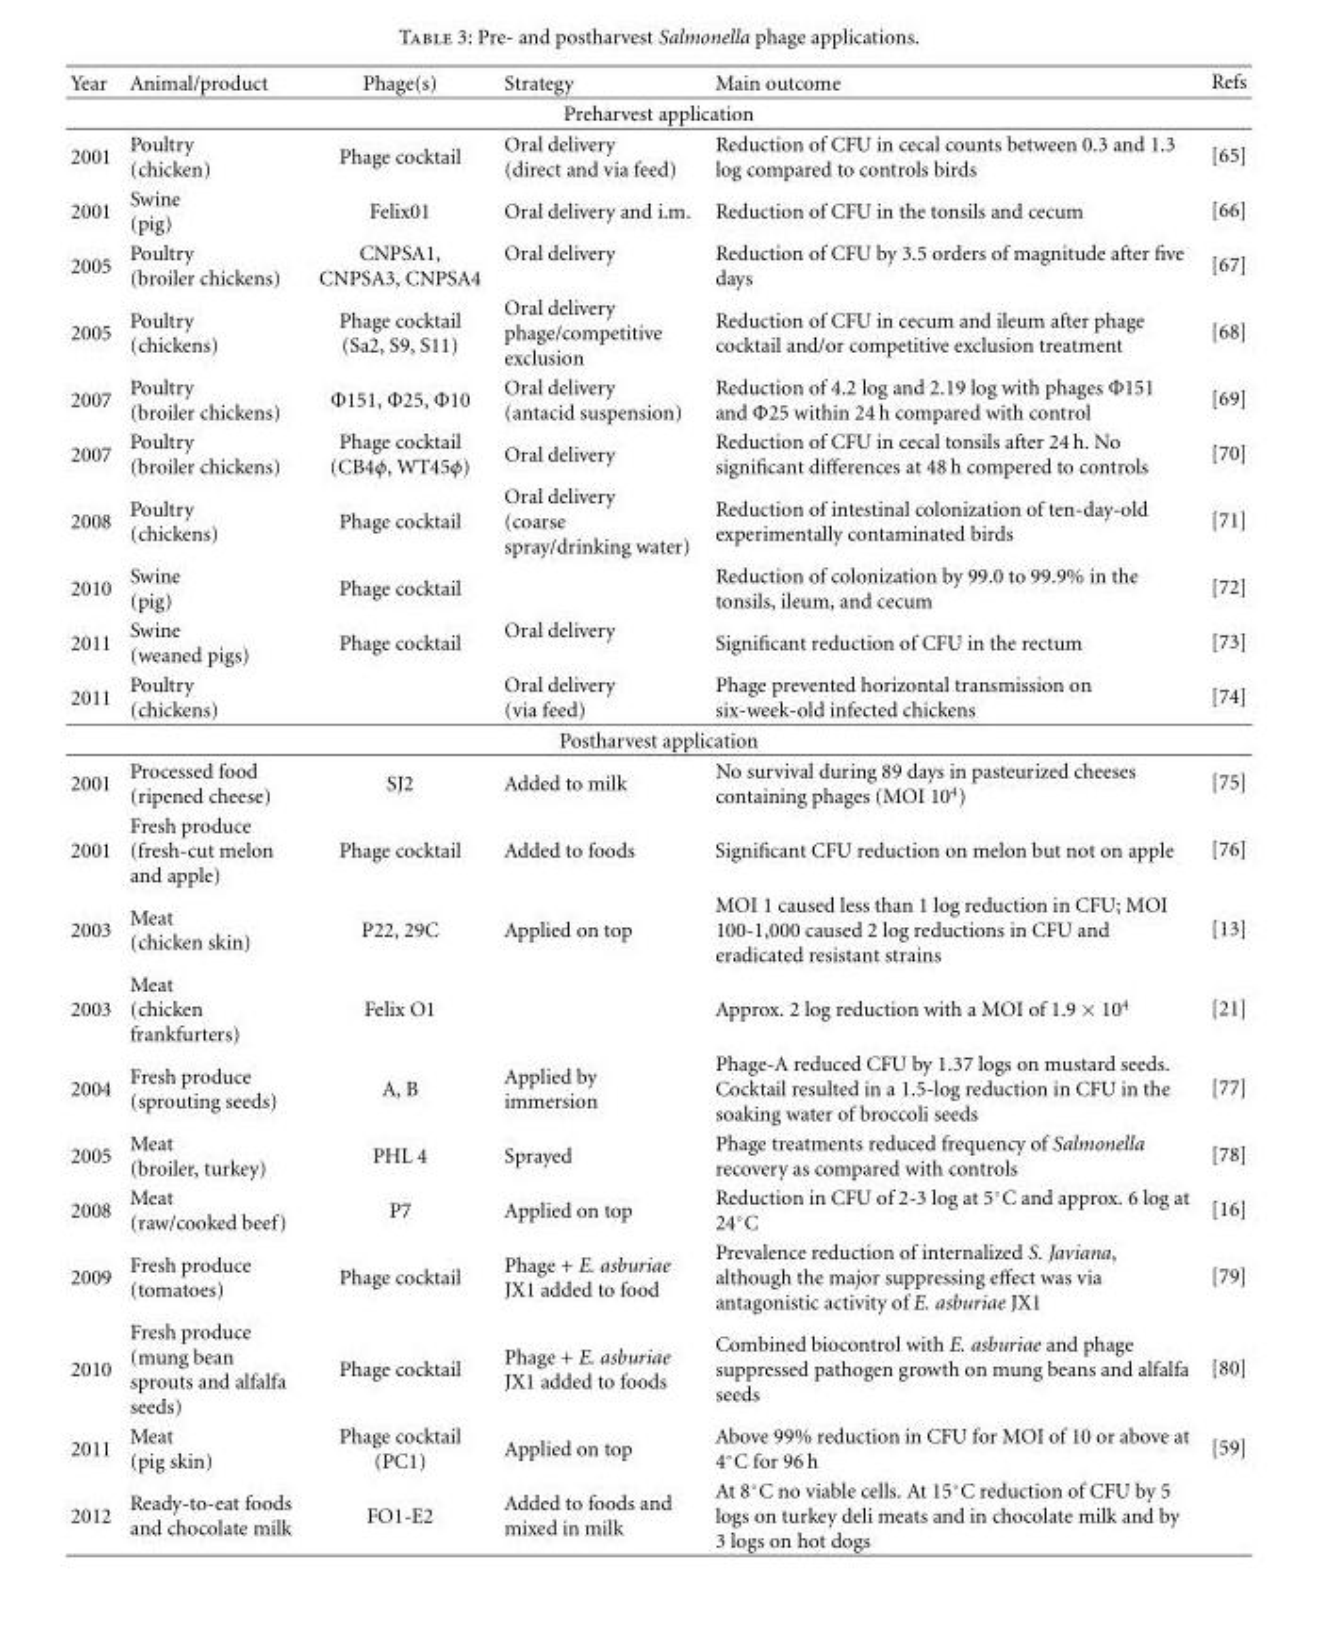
<table><thead><tr><td>Year</td><td>Animal/product</td><td>Phage(s)</td><td>Strategy</td><td>Main outcome</td><td>Refs</td></tr></thead><tbody><tr><td colspan="6">Preharvest application</td></tr><tr><td>2001</td><td>Poultry (chicken)</td><td>Phage cocktail</td><td>Oral delivery (direct and via feed)</td><td>Reduction of CFU in cecal counts between 0.3 and 1.3 log compared to controls birds</td><td>[65]</td></tr><tr><td>2001</td><td>Swine (pig)</td><td>Felix01</td><td>Oral delivery and i.m.</td><td>Reduction of CFU in the tonsils and cecum</td><td>[66]</td></tr><tr><td>2005</td><td>Poultry (broiler chickens)</td><td>CNPSA1, CNPSA3, CNPSA4</td><td>Oral delivery</td><td>Reduction of CFU by 3.5 orders of magnitude after five days</td><td>[67]</td></tr><tr><td>2005</td><td>Poultry (chickens)</td><td>Phage cocktail (Sa2, S9, S11)</td><td>Oral delivery phage/competitive exclusion</td><td>Reduction of CFU in cecum and ileum after phage cocktail and/or competitive exclusion treatment</td><td>[68]</td></tr><tr><td>2007</td><td>Poultry (broiler chickens)</td><td>Φ151, Φ25, Φ10</td><td>Oral delivery (antacid suspension)</td><td>Reduction of 4.2 log and 2.19 log with phages Φ151 and Φ25 within 24 h compared with control</td><td>[69]</td></tr><tr><td>2007</td><td>Poultry (broiler chickens)</td><td>Phage cocktail (CB4φ, WT45φ)</td><td>Oral delivery</td><td>Reduction of CFU in cecal tonsils after 24 h. No significant differences at 48 h compered to controls</td><td>[70]</td></tr><tr><td>2008</td><td>Poultry (chickens)</td><td>Phage cocktail</td><td>Oral delivery (coarse spray/drinking water)</td><td>Reduction of intestinal colonization of ten-day-old experimentally contaminated birds</td><td>[71]</td></tr><tr><td>2010</td><td>Swine (pig)</td><td>Phage cocktail</td><td></td><td>Reduction of colonization by 99.0 to 99.9% in the tonsils, ileum, and cecum</td><td>[72]</td></tr><tr><td>2011</td><td>Swine (weaned pigs)</td><td>Phage cocktail</td><td>Oral delivery</td><td>Significant reduction of CFU in the rectum</td><td>[73]</td></tr><tr><td>2011</td><td>Poultry (chickens)</td><td></td><td>Oral delivery (via feed)</td><td>Phage prevented horizontal transmission on six-week-old infected chickens</td><td>[74]</td></tr><tr><td colspan="6">Postharvest application</td></tr><tr><td>2001</td><td>Processed food (ripened cheese)</td><td>SJ2</td><td>Added to milk</td><td>No survival during 89 days in pasteurized cheeses containing phages (MOI 10<sup>4</sup>)</td><td>[75]</td></tr><tr><td>2001</td><td>Fresh produce (fresh-cut melon and apple)</td><td>Phage cocktail</td><td>Added to foods</td><td>Significant CFU reduction on melon but not on apple</td><td>[76]</td></tr><tr><td>2003</td><td>Meat (chicken skin)</td><td>P22, 29C</td><td>Applied on top</td><td>MOI 1 caused less than 1 log reduction in CFU; MOI 100-1,000 caused 2 log reductions in CFU and eradicated resistant strains</td><td>[13]</td></tr><tr><td>2003</td><td>Meat (chicken frankfurters)</td><td>Felix O1</td><td></td><td>Approx. 2 log reduction with a MOI of 1.9 × 10<sup>4</sup></td><td>[21]</td></tr><tr><td>2004</td><td>Fresh produce (sprouting seeds)</td><td>A, B</td><td>Applied by immersion</td><td>Phage-A reduced CFU by 1.37 logs on mustard seeds. Cocktail resulted in a 1.5-log reduction in CFU in the soaking water of broccoli seeds</td><td>[77]</td></tr><tr><td>2005</td><td>Meat (broiler, turkey)</td><td>PHL 4</td><td>Sprayed</td><td>Phage treatments reduced frequency of Salmonella recovery as compared with controls</td><td>[78]</td></tr><tr><td>2008</td><td>Meat (raw/cooked beef)</td><td>P7</td><td>Applied on top</td><td>Reduction in CFU of 2-3 log at 5◦C and approx. 6 log at 24◦C</td><td>[16]</td></tr><tr><td>2009</td><td>Fresh produce (tomatoes)</td><td>Phage cocktail</td><td>Phage + E. asburiae JX1 added to food</td><td>Prevalence reduction of internalized S. Javiana, although the major suppressing effect was via antagonistic activity of E. asburiae JX1</td><td>[79]</td></tr><tr><td>2010</td><td>Fresh produce (mung bean sprouts and alfalfa seeds)</td><td>Phage cocktail</td><td>Phage + E. asburiae JX1 added to foods</td><td>Combined biocontrol with E. asburiae and phage suppressed pathogen growth on mung beans and alfalfa seeds</td><td>[80]</td></tr><tr><td>2011</td><td>Meat (pig skin)</td><td>Phage cocktail (PC1)</td><td>Applied on top</td><td>Above 99% reduction in CFU for MOI of 10 or above at 4◦C for 96 h</td><td>[59]</td></tr><tr><td>2012</td><td>Ready-to-eat foods and chocolate milk</td><td>FO1-E2</td><td>Added to foods and mixed in milk</td><td>At 8◦C no viable cells. At 15◦C reduction of CFU by 5 logs on turkey deli meats and in chocolate milk and by 3 logs on hot dogs</td><td></td></tr></tbody></table>